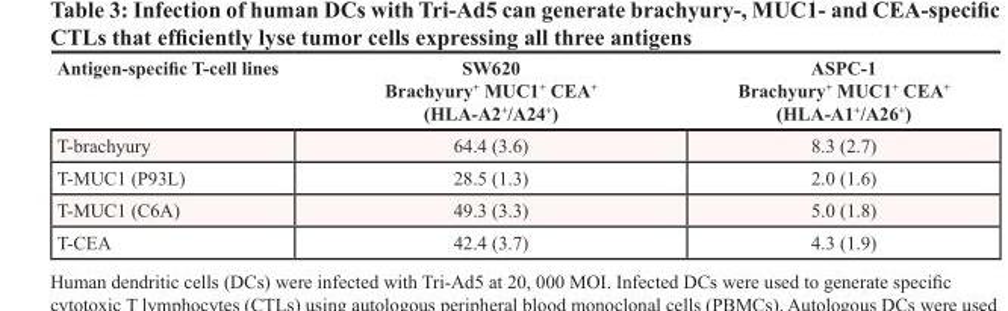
<table><thead><tr><td>Antigen-specific T-cell lines</td><td>SW620 Brachyury<sup>+</sup> MUC1<sup>+</sup> CEA<sup>+</sup> (HLA-A2<sup>+</sup>/A24<sup>+</sup>)</td><td>ASPC-1 Brachyury<sup>+</sup> MUC1<sup>+</sup> CEA<sup>+</sup> (HLA-A1<sup>+</sup>/A26<sup>+</sup>)</td></tr></thead><tbody><tr><td>T-brachyury</td><td>64.4 (3.6)</td><td>8.3 (2.7)</td></tr><tr><td>T-MUC1 (P93L)</td><td>28.5 (1.3)</td><td>2.0 (1.6)</td></tr><tr><td>T-MUC1 (C6A)</td><td>49.3 (3.3)</td><td>5.0 (1.8)</td></tr><tr><td>T-CEA</td><td>42.4 (3.7)</td><td>4.3 (1.9)</td></tr></tbody></table>